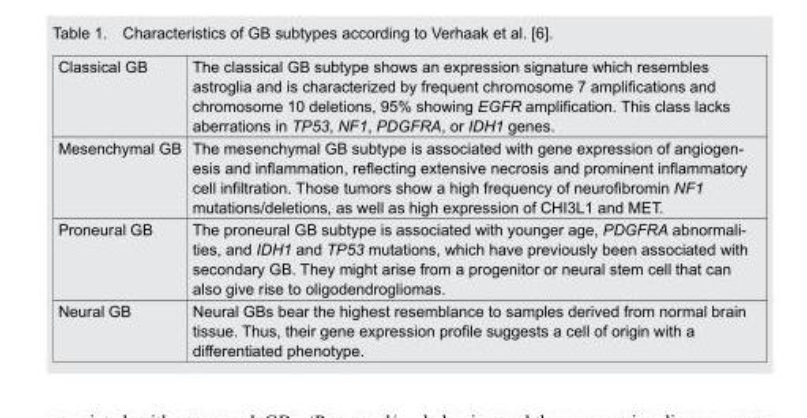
<table><tbody><tr><td>Classical GB</td><td>The classical GB subtype shows an expression signature which resembles astroglia and is characterized by frequent chromosome 7 amplifications and chromosome 10 deletions, 95% showing EGFR amplification. This class lacks aberrations in TP53, NF1, PDGFRA, or IDH1 genes.</td></tr><tr><td>Mesenchymal GB</td><td>The mesenchymal GB subtype is associated with gene expression of angiogen- esis and inflammation, reflecting extensive necrosis and prominent inflammatory cell infiltration. Those tumors show a high frequency of neurofibromin NF1 mutations/deletions, as well as high expression of CHI3L1 and MET.</td></tr><tr><td>Proneural GB</td><td>The proneural GB subtype is associated with younger age, PDGFRA abnormali- ties, and IDH1 and TP53 mutations, which have previously been associated with secondary GB. They might arise from a progenitor or neural stem cell that can also give rise to oligodendrogliomas.</td></tr><tr><td>Neural GB</td><td>Neural GBs bear the highest resemblance to samples derived from normal brain tissue. Thus, their gene expression profile suggests a cell of origin with a differentiated phenotype.</td></tr></tbody></table>